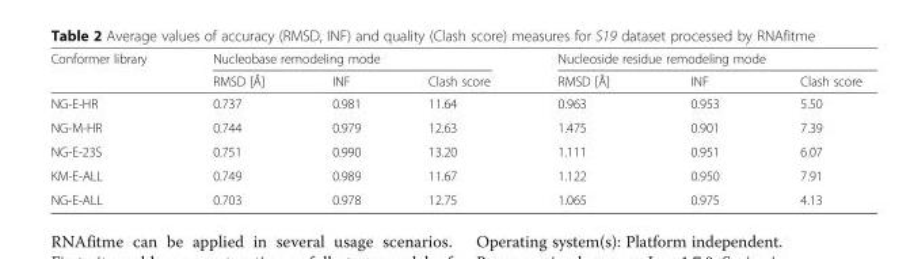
<table><thead><tr><td rowspan="2">Conformer library</td><td colspan="3">Nucleobase remodeling mode</td><td colspan="3">Nucleoside residue remodeling mode</td></tr><tr><td>RMSD [Å]</td><td>INF</td><td>Clash score</td><td>RMSD [Å]</td><td>INF</td><td>Clash score</td></tr></thead><tbody><tr><td>NG-E-HR</td><td>0.737</td><td>0.981</td><td>11.64</td><td>0.963</td><td>0.953</td><td>5.50</td></tr><tr><td>NG-M-HR</td><td>0.744</td><td>0.979</td><td>12.63</td><td>1.475</td><td>0.901</td><td>7.39</td></tr><tr><td>NG-E-23S</td><td>0.751</td><td>0.990</td><td>13.20</td><td>1.111</td><td>0.951</td><td>6.07</td></tr><tr><td>KM-E-ALL</td><td>0.749</td><td>0.989</td><td>11.67</td><td>1.122</td><td>0.950</td><td>7.91</td></tr><tr><td>NG-E-ALL</td><td>0.703</td><td>0.978</td><td>12.75</td><td>1.065</td><td>0.975</td><td>4.13</td></tr></tbody></table>